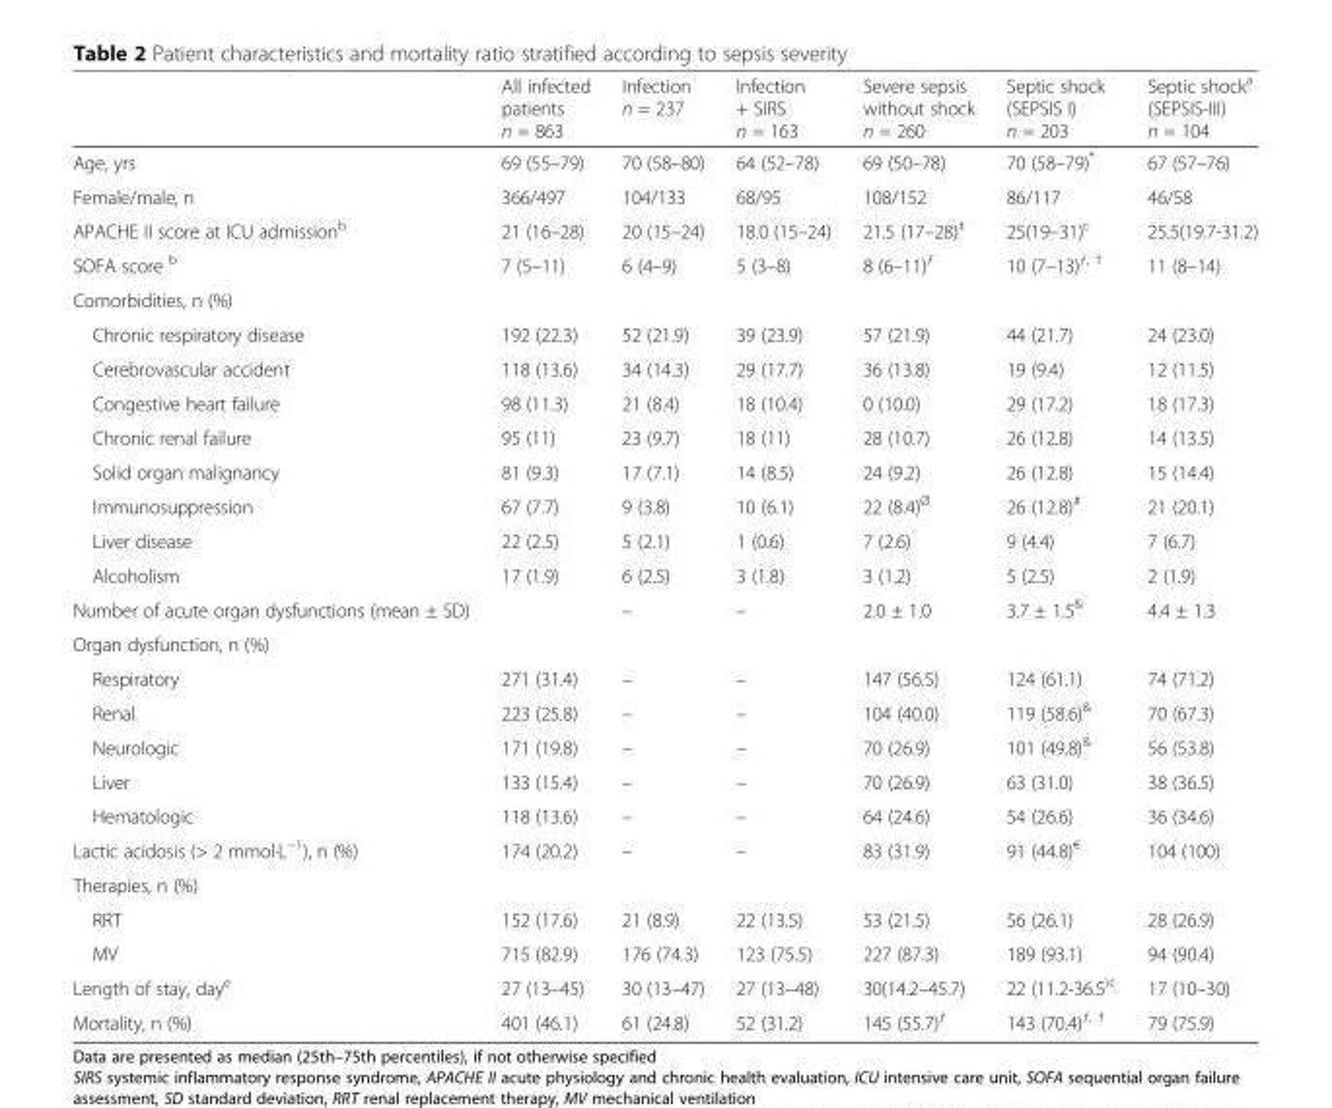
<table><thead><tr><td></td><td>All infected patients n = 863</td><td>Infection n = 237</td><td>Infection + SIRS n = 163</td><td>Severe sepsis without shock n = 260</td><td>Septic shock (SEPSIS I) n = 203</td><td>Septic shock<sup>a</sup> (SEPSIS-III) n = 104</td></tr></thead><tbody><tr><td>Age, yrs</td><td>69 (55–79)</td><td>70 (58–80)</td><td>64 (52–78)</td><td>69 (50–78)</td><td>70 (58–79)*</td><td>67 (57–76)</td></tr><tr><td>Female/male, n</td><td>366/497</td><td>104/133</td><td>68/95</td><td>108/152</td><td>86/117</td><td>46/58</td></tr><tr><td>APACHE II score at ICU admission<sup>b</sup></td><td>21 (16–28)</td><td>20 (15–24)</td><td>18.0 (15–24)</td><td>21.5 (17–28)<sup>‡</sup></td><td>25(19–31)<sup>c</sup></td><td>25.5(19.7-31.2)</td></tr><tr><td>SOFA score <sup>b</sup></td><td>7 (5–11)</td><td>6 (4–9)</td><td>5 (3–8)</td><td>8 (6–11)<sup>ƒ</sup></td><td>10 (7–13)<sup>ƒ, †</sup></td><td>11 (8–14)</td></tr><tr><td colspan="7">Comorbidities, n (%)</td></tr><tr><td>Chronic respiratory disease</td><td>192 (22.3)</td><td>52 (21.9)</td><td>39 (23.9)</td><td>57 (21.9)</td><td>44 (21.7)</td><td>24 (23.0)</td></tr><tr><td>Cerebrovascular accident</td><td>118 (13.6)</td><td>34 (14.3)</td><td>29 (17.7)</td><td>36 (13.8)</td><td>19 (9.4)</td><td>12 (11.5)</td></tr><tr><td>Congestive heart failure</td><td>98 (11.3)</td><td>21 (8.4)</td><td>18 (10.4)</td><td>0 (10.0)</td><td>29 (17.2)</td><td>18 (17.3)</td></tr><tr><td>Chronic renal failure</td><td>95 (11)</td><td>23 (9.7)</td><td>18 (11)</td><td>28 (10.7)</td><td>26 (12.8)</td><td>14 (13.5)</td></tr><tr><td>Solid organ malignancy</td><td>81 (9.3)</td><td>17 (7.1)</td><td>14 (8.5)</td><td>24 (9.2)</td><td>26 (12.8)</td><td>15 (14.4)</td></tr><tr><td>Immunosuppression</td><td>67 (7.7)</td><td>9 (3.8)</td><td>10 (6.1)</td><td>22 (8.4)<sup>Ø</sup></td><td>26 (12.8)<sup>#</sup></td><td>21 (20.1)</td></tr><tr><td>Liver disease</td><td>22 (2.5)</td><td>5 (2.1)</td><td>1 (0.6)</td><td>7 (2.6)</td><td>9 (4.4)</td><td>7 (6.7)</td></tr><tr><td>Alcoholism</td><td>17 (1.9)</td><td>6 (2.5)</td><td>3 (1.8)</td><td>3 (1.2)</td><td>5 (2.5)</td><td>2 (1.9)</td></tr><tr><td>Number of acute organ dysfunctions (mean ± SD)</td><td></td><td>–</td><td>–</td><td>2.0 ± 1.0</td><td>3.7 ± 1.5<sup>&amp;</sup></td><td>4.4 ± 1.3</td></tr><tr><td colspan="7">Organ dysfunction, n (%)</td></tr><tr><td>Respiratory</td><td>271 (31.4)</td><td>–</td><td>–</td><td>147 (56.5)</td><td>124 (61.1)</td><td>74 (71.2)</td></tr><tr><td>Renal</td><td>223 (25.8)</td><td>–</td><td>–</td><td>104 (40.0)</td><td>119 (58.6)<sup>&amp;</sup></td><td>70 (67.3)</td></tr><tr><td>Neurologic</td><td>171 (19.8)</td><td>–</td><td>–</td><td>70 (26.9)</td><td>101 (49.8)<sup>&amp;</sup></td><td>56 (53.8)</td></tr><tr><td>Liver</td><td>133 (15.4)</td><td>–</td><td>–</td><td>70 (26.9)</td><td>63 (31.0)</td><td>38 (36.5)</td></tr><tr><td>Hematologic</td><td>118 (13.6)</td><td>–</td><td>–</td><td>64 (24.6)</td><td>54 (26.6)</td><td>36 (34.6)</td></tr><tr><td>Lactic acidosis (&gt; 2 mmol∙L<sup>−1</sup>), n (%)</td><td>174 (20.2)</td><td>–</td><td>–</td><td>83 (31.9)</td><td>91 (44.8)<sup>€</sup></td><td>104 (100)</td></tr><tr><td colspan="7">Therapies, n (%)</td></tr><tr><td>RRT</td><td>152 (17.6)</td><td>21 (8.9)</td><td>22 (13.5)</td><td>53 (21.5)</td><td>56 (26.1)</td><td>28 (26.9)</td></tr><tr><td>MV</td><td>715 (82.9)</td><td>176 (74.3)</td><td>123 (75.5)</td><td>227 (87.3)</td><td>189 (93.1)</td><td>94 (90.4)</td></tr><tr><td>Length of stay, day<sup>e</sup></td><td>27 (13–45)</td><td>30 (13–47)</td><td>27 (13–48)</td><td>30(14.2–45.7)</td><td>22 (11.2-36.5<sup>)¢</sup></td><td>17 (10–30)</td></tr><tr><td>Mortality, n (%)</td><td>401 (46.1)</td><td>61 (24.8)</td><td>52 (31.2)</td><td>145 (55.7)<sup>ƒ</sup></td><td>143 (70.4)<sup>ƒ, †</sup></td><td>79 (75.9)</td></tr></tbody></table>